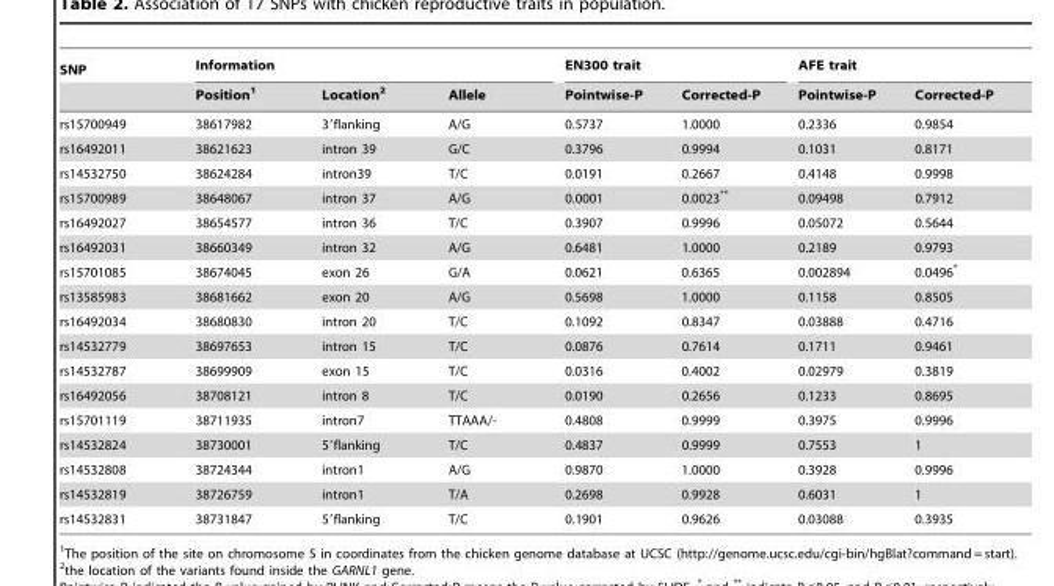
<table><thead><tr><td rowspan="2">SNP</td><td colspan="3">Information</td><td colspan="2">EN300 trait</td><td colspan="2">AFE trait</td></tr><tr><td>Position<sup>1</sup></td><td>Location<sup>2</sup></td><td>Allele</td><td>Pointwise-P</td><td>Corrected-P</td><td>Pointwise-P</td><td>Corrected-P</td></tr></thead><tbody><tr><td>rs15700949</td><td>38617982</td><td>3′flanking</td><td>A/G</td><td>0.5737</td><td>1.0000</td><td>0.2336</td><td>0.9854</td></tr><tr><td>rs16492011</td><td>38621623</td><td>intron 39</td><td>G/C</td><td>0.3796</td><td>0.9994</td><td>0.1031</td><td>0.8171</td></tr><tr><td>rs14532750</td><td>38624284</td><td>intron39</td><td>T/C</td><td>0.0191</td><td>0.2667</td><td>0.4148</td><td>0.9998</td></tr><tr><td>rs15700989</td><td>38648067</td><td>intron 37</td><td>A/G</td><td>0.0001</td><td>0.0023**</td><td>0.09498</td><td>0.7912</td></tr><tr><td>rs16492027</td><td>38654577</td><td>intron 36</td><td>T/C</td><td>0.3907</td><td>0.9996</td><td>0.05072</td><td>0.5644</td></tr><tr><td>rs16492031</td><td>38660349</td><td>intron 32</td><td>A/G</td><td>0.6481</td><td>1.0000</td><td>0.2189</td><td>0.9793</td></tr><tr><td>rs15701085</td><td>38674045</td><td>exon 26</td><td>G/A</td><td>0.0621</td><td>0.6365</td><td>0.002894</td><td>0.0496*</td></tr><tr><td>rs13585983</td><td>38681662</td><td>exon 20</td><td>A/G</td><td>0.5698</td><td>1.0000</td><td>0.1158</td><td>0.8505</td></tr><tr><td>rs16492034</td><td>38680830</td><td>intron 20</td><td>T/C</td><td>0.1092</td><td>0.8347</td><td>0.03888</td><td>0.4716</td></tr><tr><td>rs14532779</td><td>38697653</td><td>intron 15</td><td>T/C</td><td>0.0876</td><td>0.7614</td><td>0.1711</td><td>0.9461</td></tr><tr><td>rs14532787</td><td>38699909</td><td>exon 15</td><td>T/C</td><td>0.0316</td><td>0.4002</td><td>0.02979</td><td>0.3819</td></tr><tr><td>rs16492056</td><td>38708121</td><td>intron 8</td><td>T/C</td><td>0.0190</td><td>0.2656</td><td>0.1233</td><td>0.8695</td></tr><tr><td>rs15701119</td><td>38711935</td><td>intron7</td><td>TTAAA/-</td><td>0.4808</td><td>0.9999</td><td>0.3975</td><td>0.9996</td></tr><tr><td>rs14532824</td><td>38730001</td><td>5′flanking</td><td>T/C</td><td>0.4837</td><td>0.9999</td><td>0.7553</td><td>1</td></tr><tr><td>rs14532808</td><td>38724344</td><td>intron1</td><td>A/G</td><td>0.9870</td><td>1.0000</td><td>0.3928</td><td>0.9996</td></tr><tr><td>rs14532819</td><td>38726759</td><td>intron1</td><td>T/A</td><td>0.2698</td><td>0.9928</td><td>0.6031</td><td>1</td></tr><tr><td>rs14532831</td><td>38731847</td><td>5′flanking</td><td>T/C</td><td>0.1901</td><td>0.9626</td><td>0.03088</td><td>0.3935</td></tr></tbody></table>